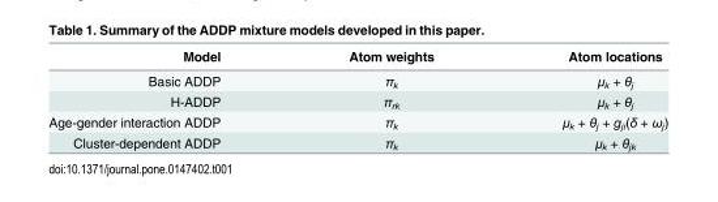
<table><thead><tr><td>Model</td><td>Atom weights</td><td>Atom locations</td></tr></thead><tbody><tr><td>Basic ADDP</td><td>π<sub>k</sub></td><td>μ<sub>k</sub> + θ<sub>j</sub></td></tr><tr><td>H-ADDP</td><td>π<sub>rk</sub></td><td>μ<sub>k</sub> + θ<sub>j</sub></td></tr><tr><td>Age-gender interaction ADDP</td><td>π<sub>k</sub></td><td>μ<sub>k</sub> + θ<sub>j</sub> + g<sub>ji</sub>(δ + ω<sub>j</sub>)</td></tr><tr><td>Cluster-dependent ADDP</td><td>π<sub>k</sub></td><td>μ<sub>k</sub> + θ<sub>jk</sub></td></tr></tbody></table>